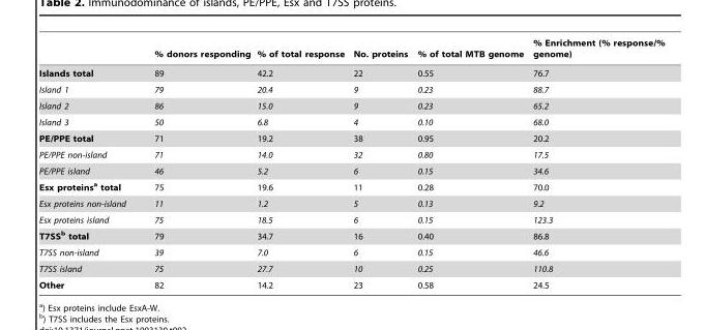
<table><thead><tr><td></td><td>% donors responding</td><td>% of total response</td><td>No. proteins</td><td>% of total MTB genome</td><td>% Enrichment (% response/% genome)</td></tr></thead><tbody><tr><td>Islands total</td><td>89</td><td>42.2</td><td>22</td><td>0.55</td><td>76.7</td></tr><tr><td>Island 1</td><td>79</td><td>20.4</td><td>9</td><td>0.23</td><td>88.7</td></tr><tr><td>Island 2</td><td>86</td><td>15.0</td><td>9</td><td>0.23</td><td>65.2</td></tr><tr><td>Island 3</td><td>50</td><td>6.8</td><td>4</td><td>0.10</td><td>68.0</td></tr><tr><td>PE/PPE total</td><td>71</td><td>19.2</td><td>38</td><td>0.95</td><td>20.2</td></tr><tr><td>PE/PPE non-island</td><td>71</td><td>14.0</td><td>32</td><td>0.80</td><td>17.5</td></tr><tr><td>PE/PPE island</td><td>46</td><td>5.2</td><td>6</td><td>0.15</td><td>34.6</td></tr><tr><td>Esx proteinsa total</td><td>75</td><td>19.6</td><td>11</td><td>0.28</td><td>70.0</td></tr><tr><td>Esx proteins non-island</td><td>11</td><td>1.2</td><td>5</td><td>0.13</td><td>9.2</td></tr><tr><td>Esx proteins island</td><td>75</td><td>18.5</td><td>6</td><td>0.15</td><td>123.3</td></tr><tr><td>T7SSb total</td><td>79</td><td>34.7</td><td>16</td><td>0.40</td><td>86.8</td></tr><tr><td>T7SS non-island</td><td>39</td><td>7.0</td><td>6</td><td>0.15</td><td>46.6</td></tr><tr><td>T7SS island</td><td>75</td><td>27.7</td><td>10</td><td>0.25</td><td>110.8</td></tr><tr><td>Other</td><td>82</td><td>14.2</td><td>23</td><td>0.58</td><td>24.5</td></tr></tbody></table>